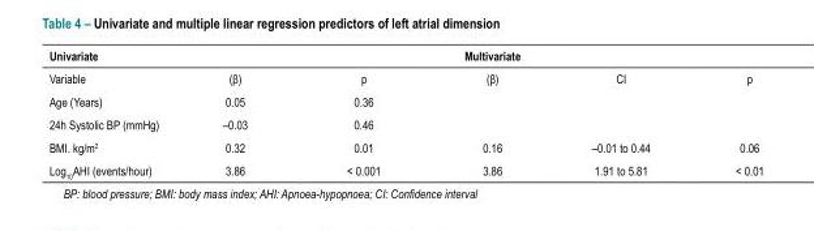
<table><thead><tr><td rowspan="2">Univariate Variable</td><td colspan="5">Multivariate</td></tr><tr><td>(β)</td><td>p</td><td>(β)</td><td>CI</td><td>p</td></tr></thead><tbody><tr><td>Age (Years)</td><td>0.05</td><td>0.36</td><td></td><td></td><td></td></tr><tr><td>24h Systolic BP (mmHg)</td><td>–0.03</td><td>0.46</td><td></td><td></td><td></td></tr><tr><td>BMI. kg/m<sup>2</sup></td><td>0.32</td><td>0.01</td><td>0.16</td><td>–0.01 to 0.44</td><td>0.06</td></tr><tr><td>Log<sub>10</sub>AHI (events/hour)</td><td>3.86</td><td>&lt; 0.001</td><td>3.86</td><td>1.91 to 5.81</td><td>&lt; 0.01</td></tr></tbody></table>